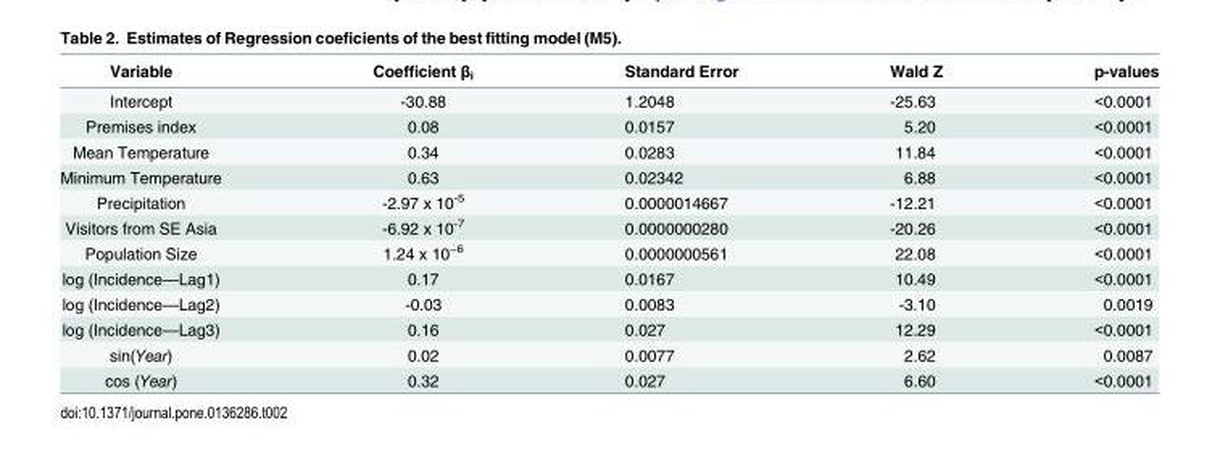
<table><thead><tr><td>Variable</td><td>Coefficient β<sub>i</sub></td><td>Standard Error</td><td>Wald Z</td><td>p-values</td></tr></thead><tbody><tr><td>Intercept</td><td>-30.88</td><td>1.2048</td><td>-25.63</td><td>&lt;0.0001</td></tr><tr><td>Premises index</td><td>0.08</td><td>0.0157</td><td>5.20</td><td>&lt;0.0001</td></tr><tr><td>Mean Temperature</td><td>0.34</td><td>0.0283</td><td>11.84</td><td>&lt;0.0001</td></tr><tr><td>Minimum Temperature</td><td>0.63</td><td>0.02342</td><td>6.88</td><td>&lt;0.0001</td></tr><tr><td>Precipitation</td><td>-2.97 x 10<sup>-5</sup></td><td>0.0000014667</td><td>-12.21</td><td>&lt;0.0001</td></tr><tr><td>Visitors from SE Asia</td><td>-6.92 x 10<sup>-7</sup></td><td>0.0000000280</td><td>-20.26</td><td>&lt;0.0001</td></tr><tr><td>Population Size</td><td>1.24 x 10<sup>−6</sup></td><td>0.0000000561</td><td>22.08</td><td>&lt;0.0001</td></tr><tr><td>log (Incidence—Lag1)</td><td>0.17</td><td>0.0167</td><td>10.49</td><td>&lt;0.0001</td></tr><tr><td>log (Incidence—Lag2)</td><td>-0.03</td><td>0.0083</td><td>-3.10</td><td>0.0019</td></tr><tr><td>log (Incidence—Lag3)</td><td>0.16</td><td>0.027</td><td>12.29</td><td>&lt;0.0001</td></tr><tr><td>sin(Year)</td><td>0.02</td><td>0.0077</td><td>2.62</td><td>0.0087</td></tr><tr><td>cos (Year)</td><td>0.32</td><td>0.027</td><td>6.60</td><td>&lt;0.0001</td></tr></tbody></table>